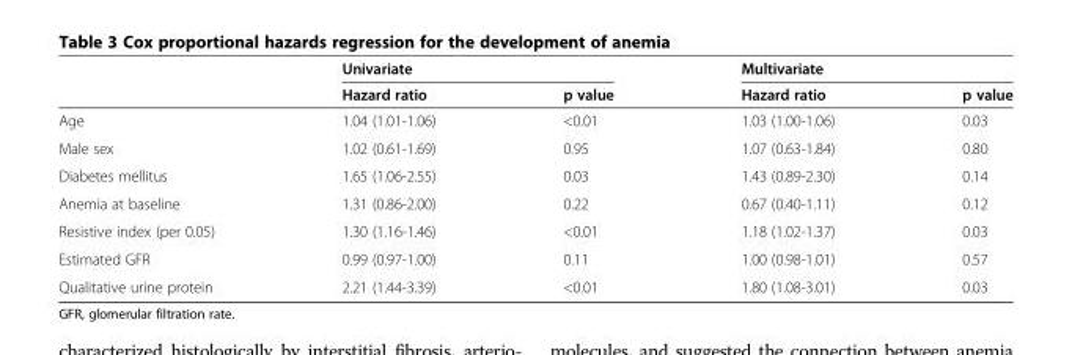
<table><thead><tr><td rowspan="2"></td><td colspan="2">Univariate</td><td colspan="2">Multivariate</td></tr><tr><td>Hazard ratio</td><td>p value</td><td>Hazard ratio</td><td>p value</td></tr></thead><tbody><tr><td>Age</td><td>1.04 (1.01-1.06)</td><td>&lt;0.01</td><td>1.03 (1.00-1.06)</td><td>0.03</td></tr><tr><td>Male sex</td><td>1.02 (0.61-1.69)</td><td>0.95</td><td>1.07 (0.63-1.84)</td><td>0.80</td></tr><tr><td>Diabetes mellitus</td><td>1.65 (1.06-2.55)</td><td>0.03</td><td>1.43 (0.89-2.30)</td><td>0.14</td></tr><tr><td>Anemia at baseline</td><td>1.31 (0.86-2.00)</td><td>0.22</td><td>0.67 (0.40-1.11)</td><td>0.12</td></tr><tr><td>Resistive index (per 0.05)</td><td>1.30 (1.16-1.46)</td><td>&lt;0.01</td><td>1.18 (1.02-1.37)</td><td>0.03</td></tr><tr><td>Estimated GFR</td><td>0.99 (0.97-1.00)</td><td>0.11</td><td>1.00 (0.98-1.01)</td><td>0.57</td></tr><tr><td>Qualitative urine protein</td><td>2.21 (1.44-3.39)</td><td>&lt;0.01</td><td>1.80 (1.08-3.01)</td><td>0.03</td></tr></tbody></table>